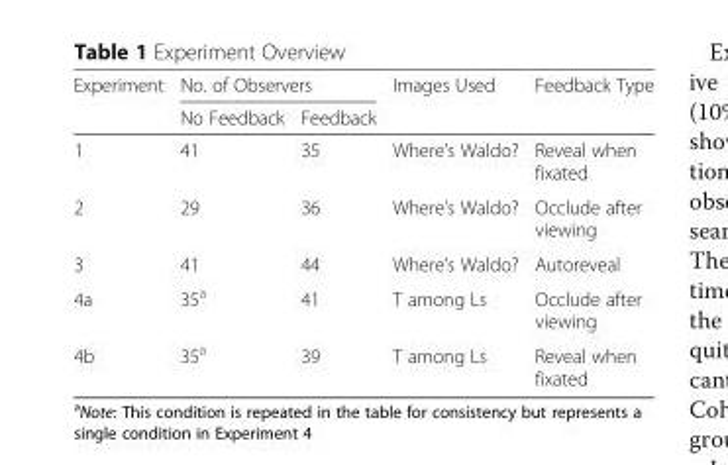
<table><thead><tr><td rowspan="2">Experiment</td><td colspan="2">No. of Observers</td><td rowspan="2">Images Used</td><td rowspan="2">Feedback Type</td></tr><tr><td>No Feedback</td><td>Feedback</td></tr></thead><tbody><tr><td>1</td><td>41</td><td>35</td><td>Where’s Waldo?</td><td>Reveal when fixated</td></tr><tr><td>2</td><td>29</td><td>36</td><td>Where’s Waldo?</td><td>Occlude after viewing</td></tr><tr><td>3</td><td>41</td><td>44</td><td>Where’s Waldo?</td><td>Autoreveal</td></tr><tr><td>4a</td><td>35<sup>a</sup></td><td>41</td><td>T among Ls</td><td>Occlude after viewing</td></tr><tr><td>4b</td><td>35<sup>a</sup></td><td>39</td><td>T among Ls</td><td>Reveal when fixated</td></tr></tbody></table>